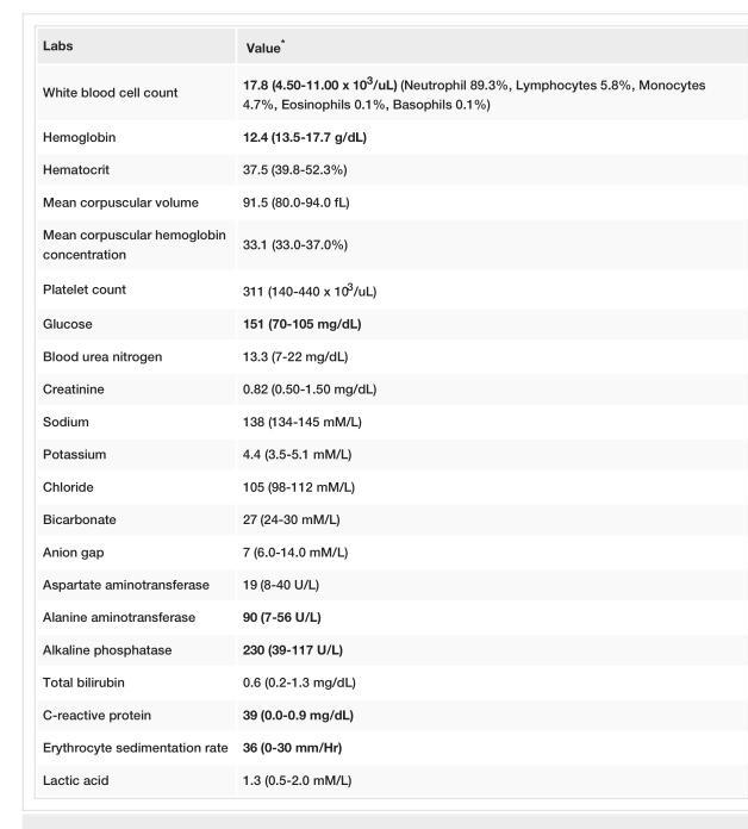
<table><tbody><tr><td>Labs</td><td>Value*</td></tr><tr><td>White blood cell count</td><td>17.8 (4.50-11.00 x 10<sup>3</sup>/uL) (Neutrophil 89.3%, Lymphocytes 5.8%, Monocytes 4.7%, Eosinophils 0.1%, Basophils 0.1%)</td></tr><tr><td>Hemoglobin</td><td>12.4 (13.5-17.7 g/dL)</td></tr><tr><td>Hematocrit</td><td>37.5 (39.8-52.3%)</td></tr><tr><td>Mean corpuscular volume</td><td>91.5 (80.0-94.0 fL)</td></tr><tr><td>Mean corpuscular hemoglobin concentration</td><td>33.1 (33.0-37.0%)</td></tr><tr><td>Platelet count</td><td>311 (140-440 x 10<sup>3</sup>/uL)</td></tr><tr><td>Glucose</td><td>151 (70-105 mg/dL)</td></tr><tr><td>Blood urea nitrogen</td><td>13.3 (7-22 mg/dL)</td></tr><tr><td>Creatinine</td><td>0.82 (0.50-1.50 mg/dL)</td></tr><tr><td>Sodium</td><td>138 (134-145 mM/L)</td></tr><tr><td>Potassium</td><td>4.4 (3.5-5.1 mM/L)</td></tr><tr><td>Chloride</td><td>105 (98-112 mM/L)</td></tr><tr><td>Bicarbonate</td><td>27 (24-30 mM/L)</td></tr><tr><td>Anion gap</td><td>7 (6.0-14.0 mM/L)</td></tr><tr><td>Aspartate aminotransferase</td><td>19 (8-40 U/L)</td></tr><tr><td>Alanine aminotransferase</td><td>90 (7-56 U/L)</td></tr><tr><td>Alkaline phosphatase</td><td>230 (39-117 U/L)</td></tr><tr><td>Total bilirubin</td><td>0.6 (0.2-1.3 mg/dL)</td></tr><tr><td>C-reactive protein</td><td>39 (0.0-0.9 mg/dL)</td></tr><tr><td>Erythrocyte sedimentation rate</td><td>36 (0-30 mm/Hr)</td></tr><tr><td>Lactic acid</td><td>1.3 (0.5-2.0 mM/L)</td></tr></tbody></table>